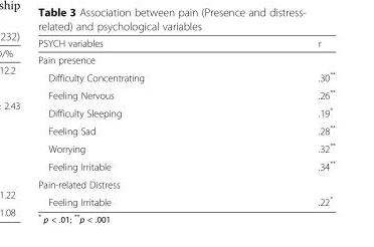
<table><thead><tr><td>PSYCH variables</td><td>r</td></tr></thead><tbody><tr><td colspan="2">Pain presence</td></tr><tr><td>Difficulty Concentrating</td><td>.30**</td></tr><tr><td>Feeling Nervous</td><td>.26**</td></tr><tr><td>Difficulty Sleeping</td><td>.19*</td></tr><tr><td>Feeling Sad</td><td>.28**</td></tr><tr><td>Worrying</td><td>.32**</td></tr><tr><td>Feeling Irritable</td><td>.34**</td></tr><tr><td colspan="2">Pain-related Distress</td></tr><tr><td>Feeling Irritable</td><td>.22*</td></tr></tbody></table>